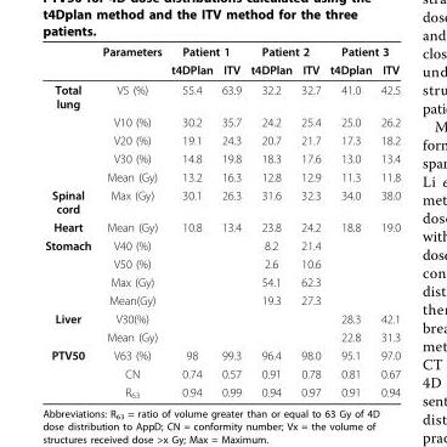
<table><thead><tr><td rowspan="2"></td><td rowspan="2">Parameters</td><td colspan="2">Patient 1</td><td colspan="2">Patient 2</td><td colspan="2">Patient 3</td></tr><tr><td>t4DPlan</td><td>ITV</td><td>t4DPlan</td><td>ITV</td><td>t4Dplan</td><td>ITV</td></tr></thead><tbody><tr><td rowspan="5">Total lung</td><td>V5 (%)</td><td>55.4</td><td>63.9</td><td>32.2</td><td>32.7</td><td>41.0</td><td>42.5</td></tr><tr><td>V10 (%)</td><td>30.2</td><td>35.7</td><td>24.2</td><td>25.4</td><td>25.0</td><td>26.2</td></tr><tr><td>V20 (%)</td><td>19.1</td><td>24.3</td><td>20.7</td><td>21.7</td><td>17.3</td><td>18.2</td></tr><tr><td>V30 (%)</td><td>14.8</td><td>19.8</td><td>18.3</td><td>17.6</td><td>13.0</td><td>13.4</td></tr><tr><td>Mean (Gy)</td><td>13.2</td><td>16.3</td><td>12.8</td><td>12.9</td><td>11.3</td><td>11.8</td></tr><tr><td>Spinal cord</td><td>Max (Gy)</td><td>30.1</td><td>26.3</td><td>31.6</td><td>32.3</td><td>34.0</td><td>38.0</td></tr><tr><td>Heart</td><td>Mean (Gy)</td><td>10.8</td><td>13.4</td><td>23.8</td><td>24.2</td><td>18.8</td><td>19.0</td></tr><tr><td rowspan="4">Stomach</td><td>V40 (%)</td><td></td><td></td><td>8.2</td><td>21.4</td><td></td><td></td></tr><tr><td>V50 (%)</td><td></td><td></td><td>2.6</td><td>10.6</td><td></td><td></td></tr><tr><td>Max (Gy)</td><td></td><td></td><td>54.1</td><td>62.3</td><td></td><td></td></tr><tr><td>Mean(Gy)</td><td></td><td></td><td>19.3</td><td>27.3</td><td></td><td></td></tr><tr><td rowspan="2">Liver</td><td>V30(%)</td><td></td><td></td><td></td><td></td><td>28.3</td><td>42.1</td></tr><tr><td>Mean (Gy)</td><td></td><td></td><td></td><td></td><td>22.8</td><td>31.3</td></tr><tr><td rowspan="3">PTV50</td><td>V63 (%)</td><td>98</td><td>99.3</td><td>96.4</td><td>98.0</td><td>95.1</td><td>97.0</td></tr><tr><td>CN</td><td>0.74</td><td>0.57</td><td>0.91</td><td>0.78</td><td>0.81</td><td>0.67</td></tr><tr><td>R<sub>63</sub></td><td>0.94</td><td>0.99</td><td>0.94</td><td>0.97</td><td>0.91</td><td>0.94</td></tr></tbody></table>